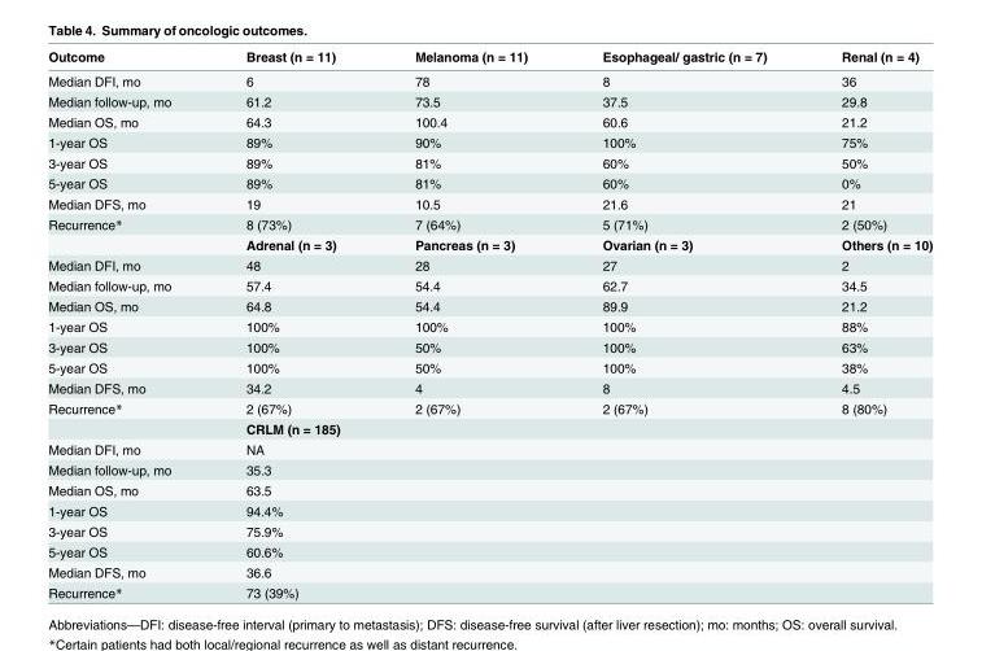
<table><thead><tr><td>Outcome</td><td>Breast (n = 11)</td><td>Melanoma (n = 11)</td><td>Esophageal/ gastric (n = 7)</td><td>Renal (n = 4)</td></tr></thead><tbody><tr><td>Median DFI, mo</td><td>6</td><td>78</td><td>8</td><td>36</td></tr><tr><td>Median follow-up, mo</td><td>61.2</td><td>73.5</td><td>37.5</td><td>29.8</td></tr><tr><td>Median OS, mo</td><td>64.3</td><td>100.4</td><td>60.6</td><td>21.2</td></tr><tr><td>1-year OS</td><td>89%</td><td>90%</td><td>100%</td><td>75%</td></tr><tr><td>3-year OS</td><td>89%</td><td>81%</td><td>60%</td><td>50%</td></tr><tr><td>5-year OS</td><td>89%</td><td>81%</td><td>60%</td><td>0%</td></tr><tr><td>Median DFS, mo</td><td>19</td><td>10.5</td><td>21.6</td><td>21</td></tr><tr><td rowspan="2">Recurrence*</td><td>8 (73%)</td><td>7 (64%)</td><td>5 (71%)</td><td>2 (50%)</td></tr><tr><td>Adrenal (n = 3)</td><td>Pancreas (n = 3)</td><td>Ovarian (n = 3)</td><td>Others (n = 10)</td></tr><tr><td>Median DFI, mo</td><td>48</td><td>28</td><td>27</td><td>2</td></tr><tr><td>Median follow-up, mo</td><td>57.4</td><td>54.4</td><td>62.7</td><td>34.5</td></tr><tr><td>Median OS, mo</td><td>64.8</td><td>54.4</td><td>89.9</td><td>21.2</td></tr><tr><td>1-year OS</td><td>100%</td><td>100%</td><td>100%</td><td>88%</td></tr><tr><td>3-year OS</td><td>100%</td><td>50%</td><td>100%</td><td>63%</td></tr><tr><td>5-year OS</td><td>100%</td><td>50%</td><td>100%</td><td>38%</td></tr><tr><td>Median DFS, mo</td><td>34.2</td><td>4</td><td>8</td><td>4.5</td></tr><tr><td rowspan="2">Recurrence*</td><td>2 (67%)</td><td>2 (67%)</td><td>2 (67%)</td><td>8 (80%)</td></tr><tr><td>CRLM (n = 185)</td><td></td><td></td><td></td></tr><tr><td>Median DFI, mo</td><td>NA</td><td></td><td></td><td></td></tr><tr><td>Median follow-up, mo</td><td>35.3</td><td></td><td></td><td></td></tr><tr><td>Median OS, mo</td><td>63.5</td><td></td><td></td><td></td></tr><tr><td>1-year OS</td><td>94.4%</td><td></td><td></td><td></td></tr><tr><td>3-year OS</td><td>75.9%</td><td></td><td></td><td></td></tr><tr><td>5-year OS</td><td>60.6%</td><td></td><td></td><td></td></tr><tr><td>Median DFS, mo</td><td>36.6</td><td></td><td></td><td></td></tr><tr><td>Recurrence*</td><td>73 (39%)</td><td></td><td></td><td></td></tr></tbody></table>